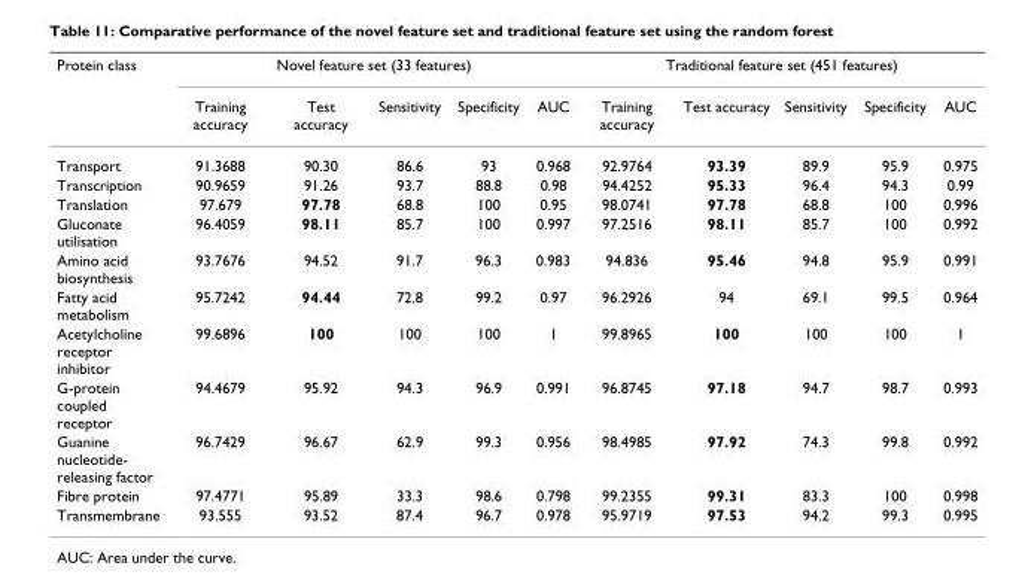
<table><thead><tr><td rowspan="2">Protein class</td><td colspan="5">Novel feature set (33 features)</td><td colspan="5">Traditional feature set (451 features)</td></tr><tr><td>Training accuracy</td><td>Test accuracy</td><td>Sensitivity</td><td>Specificity</td><td>AUC</td><td>Training accuracy</td><td>Test accuracy</td><td>Sensitivity</td><td>Specificity</td><td>AUC</td></tr></thead><tbody><tr><td>Transport</td><td>91.3688</td><td>90.30</td><td>86.6</td><td>93</td><td>0.968</td><td>92.9764</td><td>93.39</td><td>89.9</td><td>95.9</td><td>0.975</td></tr><tr><td>Transcription</td><td>90.9659</td><td>91.26</td><td>93.7</td><td>88.8</td><td>0.98</td><td>94.4252</td><td>95.33</td><td>96.4</td><td>94.3</td><td>0.99</td></tr><tr><td>Translation</td><td>97.679</td><td>97.78</td><td>68.8</td><td>100</td><td>0.95</td><td>98.0741</td><td>97.78</td><td>68.8</td><td>100</td><td>0.996</td></tr><tr><td>Gluconate utilisation</td><td>96.4059</td><td>98.11</td><td>85.7</td><td>100</td><td>0.997</td><td>97.2516</td><td>98.11</td><td>85.7</td><td>100</td><td>0.992</td></tr><tr><td>Amino acid biosynthesis</td><td>93.7676</td><td>94.52</td><td>91.7</td><td>96.3</td><td>0.983</td><td>94.836</td><td>95.46</td><td>94.8</td><td>95.9</td><td>0.991</td></tr><tr><td>Fatty acid metabolism</td><td>95.7242</td><td>94.44</td><td>72.8</td><td>99.2</td><td>0.97</td><td>96.2926</td><td>94</td><td>69.1</td><td>99.5</td><td>0.964</td></tr><tr><td>Acetylcholine receptor inhibitor</td><td>99.6896</td><td>100</td><td>100</td><td>100</td><td>1</td><td>99.8965</td><td>100</td><td>100</td><td>100</td><td>1</td></tr><tr><td>G-protein coupled receptor</td><td>94.4679</td><td>95.92</td><td>94.3</td><td>96.9</td><td>0.991</td><td>96.8745</td><td>97.18</td><td>94.7</td><td>98.7</td><td>0.993</td></tr><tr><td>Guanine nucleotide- releasing factor</td><td>96.7429</td><td>96.67</td><td>62.9</td><td>99.3</td><td>0.956</td><td>98.4985</td><td>97.92</td><td>74.3</td><td>99.8</td><td>0.992</td></tr><tr><td>Fibre protein</td><td>97.4771</td><td>95.89</td><td>33.3</td><td>98.6</td><td>0.798</td><td>99.2355</td><td>99.31</td><td>83.3</td><td>100</td><td>0.998</td></tr><tr><td>Transmembrane</td><td>93.555</td><td>93.52</td><td>87.4</td><td>96.7</td><td>0.978</td><td>95.9719</td><td>97.53</td><td>94.2</td><td>99.3</td><td>0.995</td></tr></tbody></table>